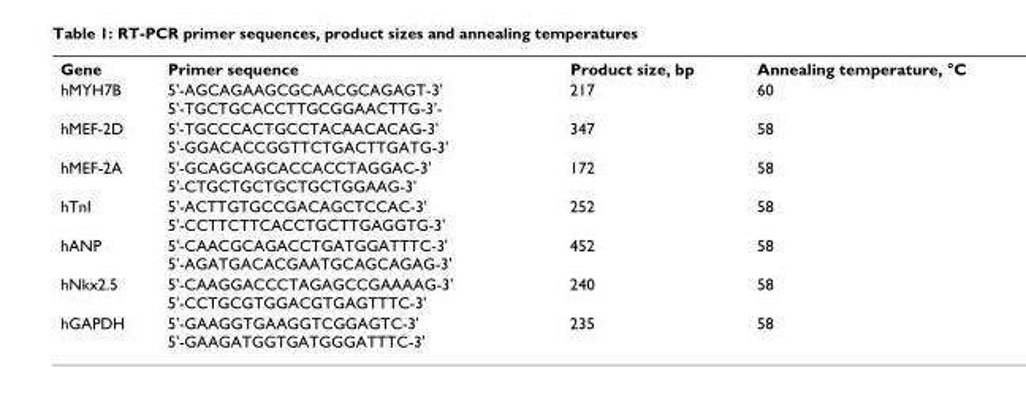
<table><tbody><tr><td>Gene</td><td>Primer sequence</td><td>Product size, bp</td><td>Annealing temperature, °C</td></tr><tr><td>hMYH7B</td><td>5&#x27;-AGCAGAAGCGCAACGCAGAGT-3&#x27; 5&#x27;-TGCTGCACCTTGCGGAACTTG-3&#x27;-</td><td>217</td><td>60</td></tr><tr><td>hMEF-2D</td><td>5&#x27;-TGCCCACTGCCTACAACACAG-3&#x27; 5&#x27;-GGACACCGGTTCTGACTTGATG-3&#x27;</td><td>347</td><td>58</td></tr><tr><td>hMEF-2A</td><td>5&#x27;-GCAGCAGCACCACCTAGGAC-3&#x27; 5&#x27;-CTGCTGCTGCTGCTGGAAG-3&#x27;</td><td>172</td><td>58</td></tr><tr><td>hTnI</td><td>5&#x27;-ACTTGTGCCGACAGCTCCAC-3&#x27; 5&#x27;-CCTTCTTCACCTGCTTGAGGTG-3&#x27;</td><td>252</td><td>58</td></tr><tr><td>hANP</td><td>5&#x27;-CAACGCAGACCTGATGGATTTC-3&#x27; 5&#x27;-AGATGACACGAATGCAGCAGAG-3&#x27;</td><td>452</td><td>58</td></tr><tr><td>hNkx2.5</td><td>5&#x27;-CAAGGACCCTAGAGCCGAAAAG-3&#x27; 5&#x27;-CCTGCGTGGACGTGAGTTTC-3&#x27;</td><td>240</td><td>58</td></tr><tr><td>hGAPDH</td><td>5&#x27;-GAAGGTGAAGGTCGGAGTC-3&#x27; 5&#x27;-GAAGATGGTGATGGGATTTC-3&#x27;</td><td>235</td><td>58</td></tr></tbody></table>